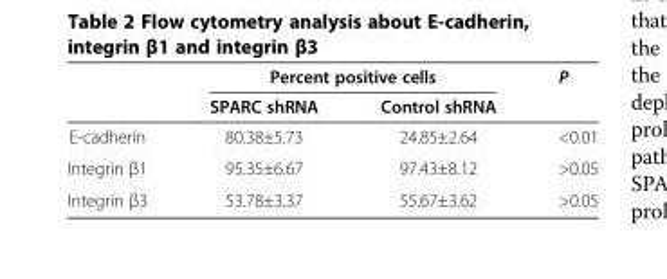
<table><thead><tr><td rowspan="2"></td><td colspan="2">Percent positive cells</td><td rowspan="2">P</td></tr><tr><td>SPARC shRNA</td><td>Control shRNA</td></tr></thead><tbody><tr><td>E-cadherin</td><td>80.38±5.73</td><td>24.85±2.64</td><td>&lt;0.01</td></tr><tr><td>Integrin β1</td><td>95.35±6.67</td><td>97.43±8.12</td><td>&gt;0.05</td></tr><tr><td>Integrin β3</td><td>53.78±3.37</td><td>55.67±3.62</td><td>&gt;0.05</td></tr></tbody></table>